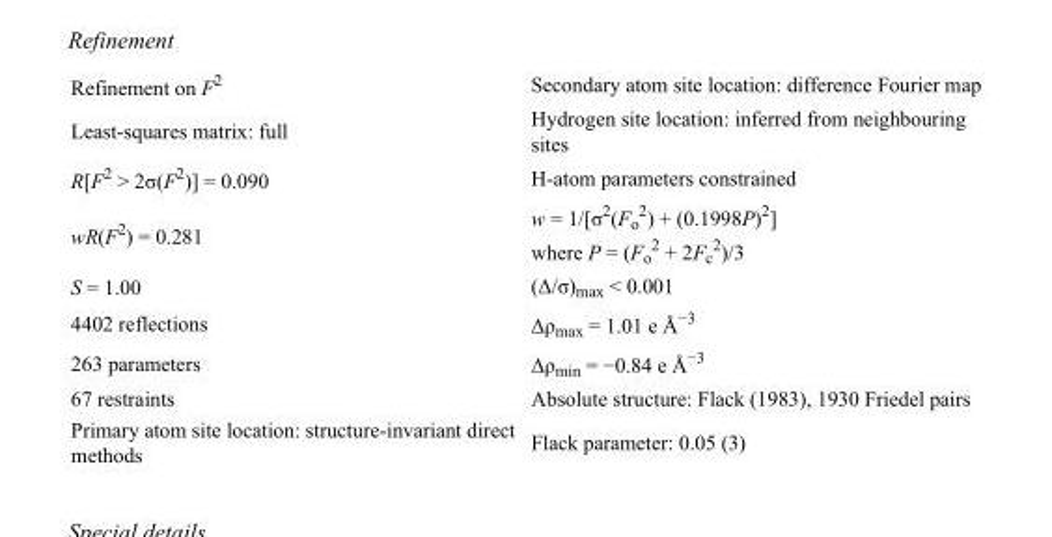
<table><tbody><tr><td>Refinement on F<sup>2</sup></td><td>Secondary atom site location: difference Fourier map</td></tr><tr><td>Least-squares matrix: full</td><td>Hydrogen site location: inferred from neighbouring sites</td></tr><tr><td>R[F<sup>2</sup> &gt; 2σ(F<sup>2</sup>)] = 0.090</td><td>H-atom parameters constrained</td></tr><tr><td>wR(F<sup>2</sup>) = 0.281</td><td>w = 1/[σ<sup>2</sup>(F<sub>o</sub> <sup>2</sup>) + (0.1998P)<sup>2</sup>] where P = (F<sub>o</sub> <sup>2</sup> + 2F<sub>c</sub> <sup>2</sup>)/3</td></tr><tr><td>S = 1.00</td><td>(Δ/σ)<sub>max</sub> &lt; 0.001</td></tr><tr><td>4402 reflections</td><td>Δρ<sub>max</sub> = 1.01 e Å<sup>−3</sup></td></tr><tr><td>263 parameters</td><td>Δρ<sub>min</sub> = −0.84 e Å<sup>−3</sup></td></tr><tr><td>67 restraints</td><td>Absolute structure: Flack (1983), 1930 Friedel pairs</td></tr><tr><td>Primary atom site location: structure-invariant direct methods</td><td>Flack parameter: 0.05 (3)</td></tr></tbody></table>